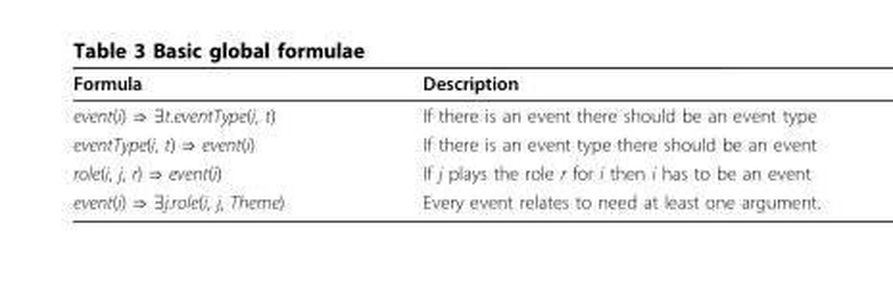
<table><thead><tr><td>Formula</td><td>Description</td></tr></thead><tbody><tr><td>event(i) ⇒ ∃t.eventType(i, t)</td><td>If there is an event there should be an event type</td></tr><tr><td>eventType(i, t) ⇒ event(i)</td><td>If there is an event type there should be an event</td></tr><tr><td>role(i, j, r) ⇒ event(i)</td><td>If j plays the role r for i then i has to be an event</td></tr><tr><td>event(i) ⇒ ∃j.role(i, j, Theme)</td><td>Every event relates to need at least one argument.</td></tr></tbody></table>